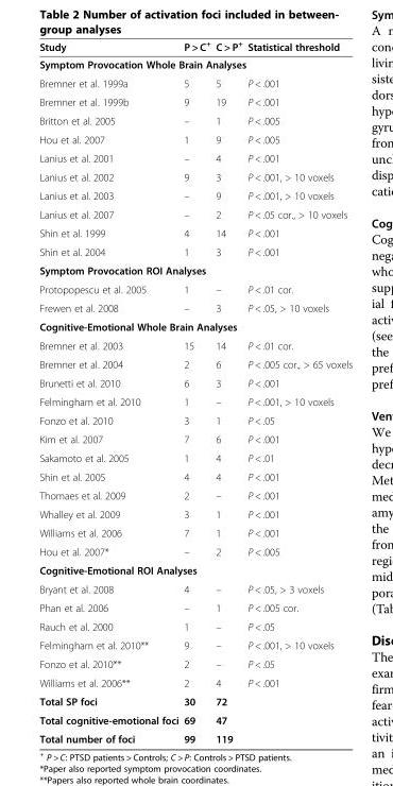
<table><thead><tr><td>Study</td><td>P &gt; C<sup>+</sup></td><td>C &gt; P<sup>+</sup></td><td>Statistical threshold</td></tr></thead><tbody><tr><td colspan="4">Symptom Provocation Whole Brain Analyses</td></tr><tr><td>Bremner et al. 1999a</td><td>5</td><td>5</td><td>P &lt; .001</td></tr><tr><td>Bremner et al. 1999b</td><td>9</td><td>19</td><td>P &lt; .001</td></tr><tr><td>Britton et al. 2005</td><td>–</td><td>1</td><td>P &lt; .005</td></tr><tr><td>Hou et al. 2007</td><td>1</td><td>9</td><td>P &lt; .005</td></tr><tr><td>Lanius et al. 2001</td><td>–</td><td>4</td><td>P &lt; .001</td></tr><tr><td>Lanius et al. 2002</td><td>9</td><td>3</td><td>P &lt; .001, &gt; 10 voxels</td></tr><tr><td>Lanius et al. 2003</td><td>–</td><td>9</td><td>P &lt; .001, &gt; 10 voxels</td></tr><tr><td>Lanius et al. 2007</td><td>–</td><td>2</td><td>P &lt; .05 cor., &gt; 10 voxels</td></tr><tr><td>Shin et al. 1999</td><td>4</td><td>14</td><td>P &lt; .001</td></tr><tr><td>Shin et al. 2004</td><td>1</td><td>3</td><td>P &lt; .001</td></tr><tr><td colspan="4">Symptom Provocation ROI Analyses</td></tr><tr><td>Protopopescu et al. 2005</td><td>1</td><td>–</td><td>P &lt; .01 cor.</td></tr><tr><td>Frewen et al. 2008</td><td>–</td><td>3</td><td>P &lt; .05, &gt; 10 voxels</td></tr><tr><td colspan="4">Cognitive-Emotional Whole Brain Analyses</td></tr><tr><td>Bremner et al. 2003</td><td>15</td><td>14</td><td>P &lt; .01 cor.</td></tr><tr><td>Bremner et al. 2004</td><td>2</td><td>6</td><td>P &lt; .005 cor., &gt; 65 voxels</td></tr><tr><td>Brunetti et al. 2010</td><td>6</td><td>3</td><td>P &lt; .001</td></tr><tr><td>Felmingham et al. 2010</td><td>1</td><td>–</td><td>P &lt; .001, &gt; 10 voxels</td></tr><tr><td>Fonzo et al. 2010</td><td>3</td><td>1</td><td>P &lt; .05</td></tr><tr><td>Kim et al. 2007</td><td>7</td><td>6</td><td>P &lt; .001</td></tr><tr><td>Sakamoto et al. 2005</td><td>1</td><td>4</td><td>P &lt; .01</td></tr><tr><td>Shin et al. 2005</td><td>4</td><td>4</td><td>P &lt; .001</td></tr><tr><td>Thomaes et al. 2009</td><td>2</td><td>–</td><td>P &lt; .001</td></tr><tr><td>Whalley et al. 2009</td><td>3</td><td>1</td><td>P &lt; .001</td></tr><tr><td>Williams et al. 2006</td><td>7</td><td>1</td><td>P &lt; .001</td></tr><tr><td>Hou et al. 2007*</td><td>–</td><td>2</td><td>P &lt; .005</td></tr><tr><td colspan="4">Cognitive-Emotional ROI Analyses</td></tr><tr><td>Bryant et al. 2008</td><td>4</td><td>–</td><td>P &lt; .05, &gt; 3 voxels</td></tr><tr><td>Phan et al. 2006</td><td>–</td><td>1</td><td>P &lt; .005 cor.</td></tr><tr><td>Rauch et al. 2000</td><td>1</td><td>–</td><td>P &lt; .05</td></tr><tr><td>Felmingham et al. 2010**</td><td>9</td><td>–</td><td>P &lt; .001, &gt; 10 voxels</td></tr><tr><td>Fonzo et al. 2010**</td><td>2</td><td>–</td><td>P &lt; .05</td></tr><tr><td>Williams et al. 2006**</td><td>2</td><td>4</td><td>P &lt; .001</td></tr><tr><td>Total SP foci</td><td>30</td><td>72</td><td></td></tr><tr><td>Total cognitive-emotional foci</td><td>69</td><td>47</td><td></td></tr><tr><td>Total number of foci</td><td>99</td><td>119</td><td></td></tr></tbody></table>